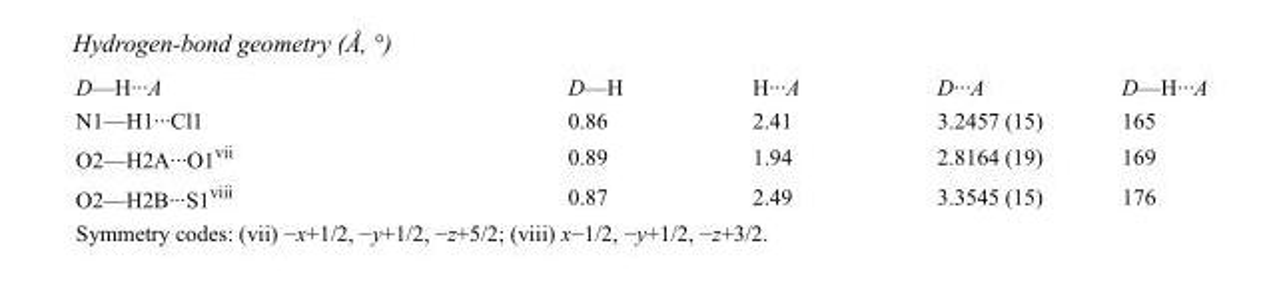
<table><tbody><tr><td>D—H···A</td><td>D—H</td><td>H···A</td><td>D···A</td><td>D—H···A</td></tr><tr><td>N1—H1···Cl1</td><td>0.86</td><td>2.41</td><td>3.2457 (15)</td><td>165</td></tr><tr><td>O2—H2A···O1<sup>vii</sup></td><td>0.89</td><td>1.94</td><td>2.8164 (19)</td><td>169</td></tr><tr><td>O2—H2B···S1<sup>viii</sup></td><td>0.87</td><td>2.49</td><td>3.3545 (15)</td><td>176</td></tr></tbody></table>